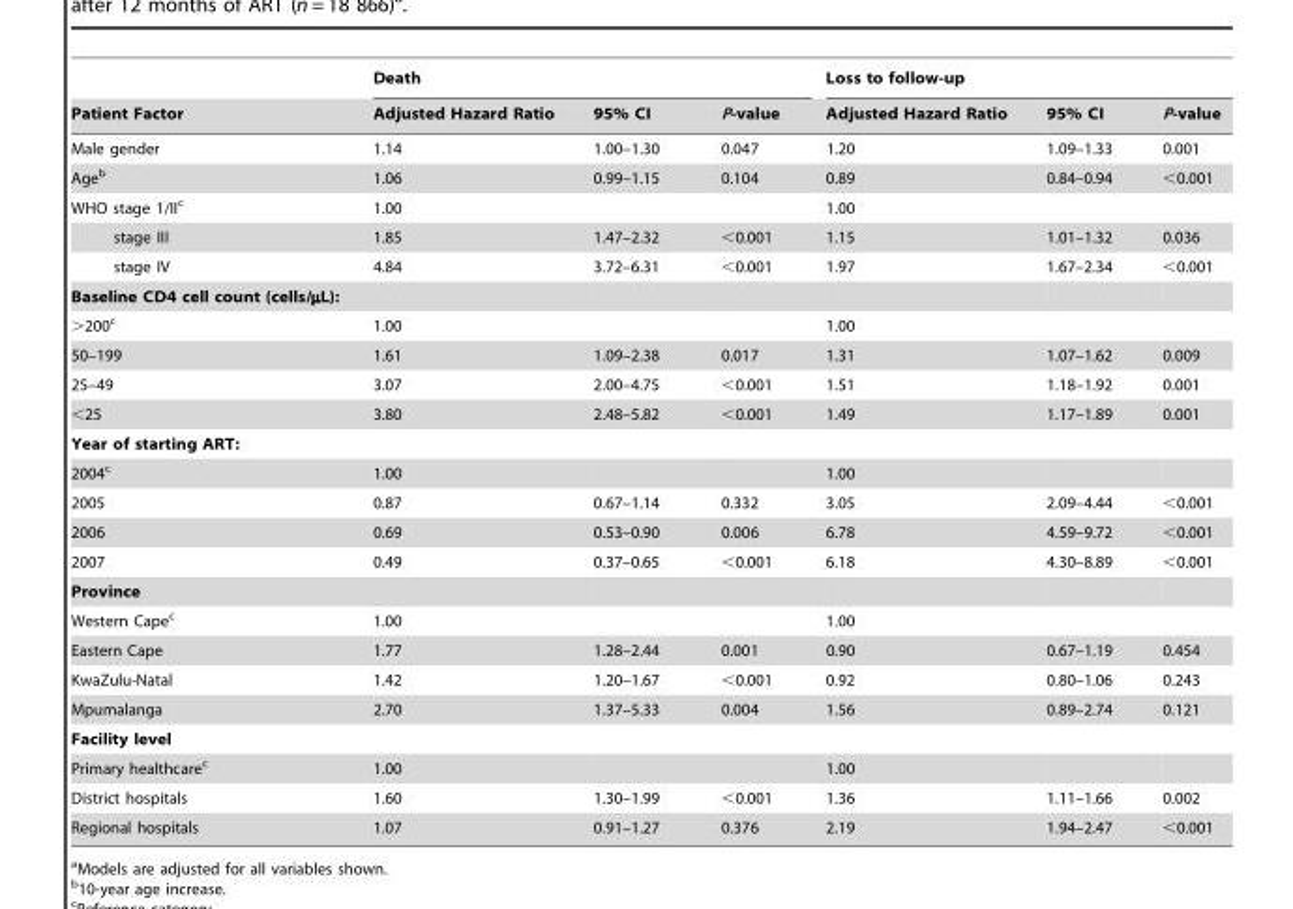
<table><thead><tr><td rowspan="2">Patient Factor</td><td colspan="3">Death</td><td colspan="3">Loss to follow-up</td></tr><tr><td>Adjusted Hazard Ratio</td><td>95% CI</td><td>P-value</td><td>Adjusted Hazard Ratio</td><td>95% CI</td><td>P-value</td></tr></thead><tbody><tr><td>Male gender</td><td>1.14</td><td>1.00–1.30</td><td>0.047</td><td>1.20</td><td>1.09–1.33</td><td>0.001</td></tr><tr><td>Age<sup>b</sup></td><td>1.06</td><td>0.99–1.15</td><td>0.104</td><td>0.89</td><td>0.84–0.94</td><td>&lt;0.001</td></tr><tr><td>WHO stage 1/II<sup>c</sup></td><td>1.00</td><td></td><td></td><td>1.00</td><td></td><td></td></tr><tr><td>stage III</td><td>1.85</td><td>1.47–2.32</td><td>&lt;0.001</td><td>1.15</td><td>1.01–1.32</td><td>0.036</td></tr><tr><td>stage IV</td><td>4.84</td><td>3.72–6.31</td><td>&lt;0.001</td><td>1.97</td><td>1.67–2.34</td><td>&lt;0.001</td></tr><tr><td colspan="7">Baseline CD4 cell count (cells/µL):</td></tr><tr><td>&gt;200<sup>c</sup></td><td>1.00</td><td></td><td></td><td>1.00</td><td></td><td></td></tr><tr><td>50–199</td><td>1.61</td><td>1.09–2.38</td><td>0.017</td><td>1.31</td><td>1.07–1.62</td><td>0.009</td></tr><tr><td>25–49</td><td>3.07</td><td>2.00–4.75</td><td>&lt;0.001</td><td>1.51</td><td>1.18–1.92</td><td>0.001</td></tr><tr><td>&lt;25</td><td>3.80</td><td>2.48–5.82</td><td>&lt;0.001</td><td>1.49</td><td>1.17–1.89</td><td>0.001</td></tr><tr><td colspan="7">Year of starting ART:</td></tr><tr><td>2004<sup>c</sup></td><td>1.00</td><td></td><td></td><td>1.00</td><td></td><td></td></tr><tr><td>2005</td><td>0.87</td><td>0.67–1.14</td><td>0.332</td><td>3.05</td><td>2.09–4.44</td><td>&lt;0.001</td></tr><tr><td>2006</td><td>0.69</td><td>0.53–0.90</td><td>0.006</td><td>6.78</td><td>4.59–9.72</td><td>&lt;0.001</td></tr><tr><td>2007</td><td>0.49</td><td>0.37–0.65</td><td>&lt;0.001</td><td>6.18</td><td>4.30–8.89</td><td>&lt;0.001</td></tr><tr><td colspan="7">Province</td></tr><tr><td>Western Cape<sup>c</sup></td><td>1.00</td><td></td><td></td><td>1.00</td><td></td><td></td></tr><tr><td>Eastern Cape</td><td>1.77</td><td>1.28–2.44</td><td>0.001</td><td>0.90</td><td>0.67–1.19</td><td>0.454</td></tr><tr><td>KwaZulu-Natal</td><td>1.42</td><td>1.20–1.67</td><td>&lt;0.001</td><td>0.92</td><td>0.80–1.06</td><td>0.243</td></tr><tr><td>Mpumalanga</td><td>2.70</td><td>1.37–5.33</td><td>0.004</td><td>1.56</td><td>0.89–2.74</td><td>0.121</td></tr><tr><td colspan="7">Facility level</td></tr><tr><td>Primary healthcare<sup>c</sup></td><td>1.00</td><td></td><td></td><td>1.00</td><td></td><td></td></tr><tr><td>District hospitals</td><td>1.60</td><td>1.30–1.99</td><td>&lt;0.001</td><td>1.36</td><td>1.11–1.66</td><td>0.002</td></tr><tr><td>Regional hospitals</td><td>1.07</td><td>0.91–1.27</td><td>0.376</td><td>2.19</td><td>1.94–2.47</td><td>&lt;0.001</td></tr></tbody></table>